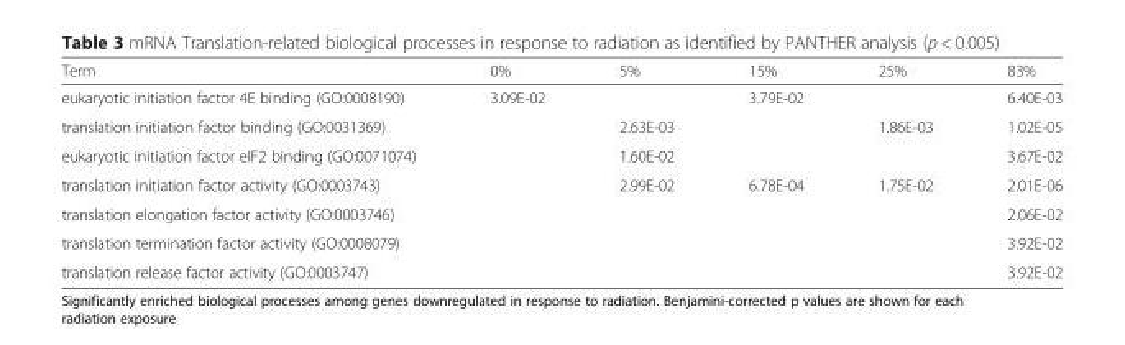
<table><thead><tr><td>Term</td><td>0%</td><td>5%</td><td>15%</td><td>25%</td><td>83%</td></tr></thead><tbody><tr><td>eukaryotic initiation factor 4E binding (GO:0008190)</td><td>3.09E-02</td><td></td><td>3.79E-02</td><td></td><td>6.40E-03</td></tr><tr><td>translation initiation factor binding (GO:0031369)</td><td></td><td>2.63E-03</td><td></td><td>1.86E-03</td><td>1.02E-05</td></tr><tr><td>eukaryotic initiation factor eIF2 binding (GO:0071074)</td><td></td><td>1.60E-02</td><td></td><td></td><td>3.67E-02</td></tr><tr><td>translation initiation factor activity (GO:0003743)</td><td></td><td>2.99E-02</td><td>6.78E-04</td><td>1.75E-02</td><td>2.01E-06</td></tr><tr><td>translation elongation factor activity (GO:0003746)</td><td></td><td></td><td></td><td></td><td>2.06E-02</td></tr><tr><td>translation termination factor activity (GO:0008079)</td><td></td><td></td><td></td><td></td><td>3.92E-02</td></tr><tr><td>translation release factor activity (GO:0003747)</td><td></td><td></td><td></td><td></td><td>3.92E-02</td></tr></tbody></table>